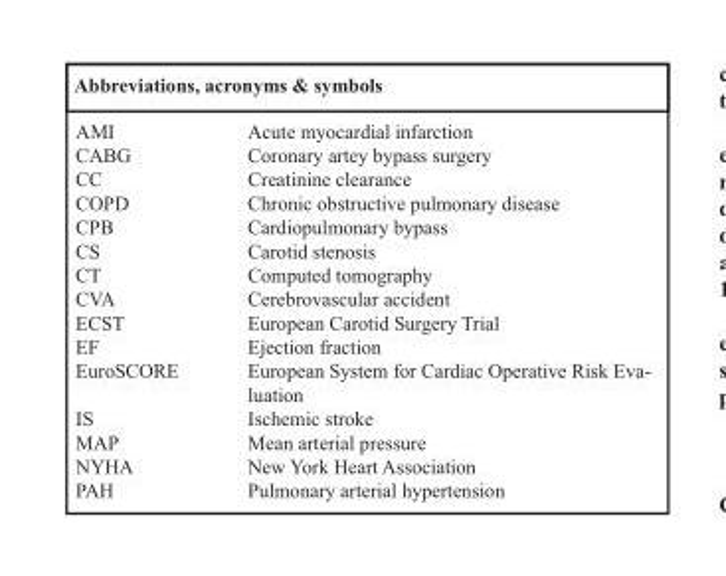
<table><thead><tr><td colspan="2">Abbreviations, acronyms &amp; symbols</td></tr><tr><td>AMI</td><td>Acute myocardial infarction</td></tr></thead><tbody><tr><td>CABG</td><td>Coronary artey bypass surgery</td></tr><tr><td>CC</td><td>Creatinine clearance</td></tr><tr><td>COPD</td><td>Chronic obstructive pulmonary disease</td></tr><tr><td>CPB</td><td>Cardiopulmonary bypass</td></tr><tr><td>CS</td><td>Carotid stenosis</td></tr><tr><td>CT</td><td>Computed tomography</td></tr><tr><td>CVA</td><td>Cerebrovascular accident</td></tr><tr><td>ECST</td><td>European Carotid Surgery Trial</td></tr><tr><td>EF</td><td>Ejection fraction</td></tr><tr><td>EuroSCORE</td><td>European System for Cardiac Operative Risk Eva- luation</td></tr><tr><td>IS</td><td>Ischemic stroke</td></tr><tr><td>MAP</td><td>Mean arterial pressure</td></tr><tr><td>NYHA</td><td>New York Heart Association</td></tr><tr><td>PAH</td><td>Pulmonary arterial hypertension</td></tr></tbody></table>